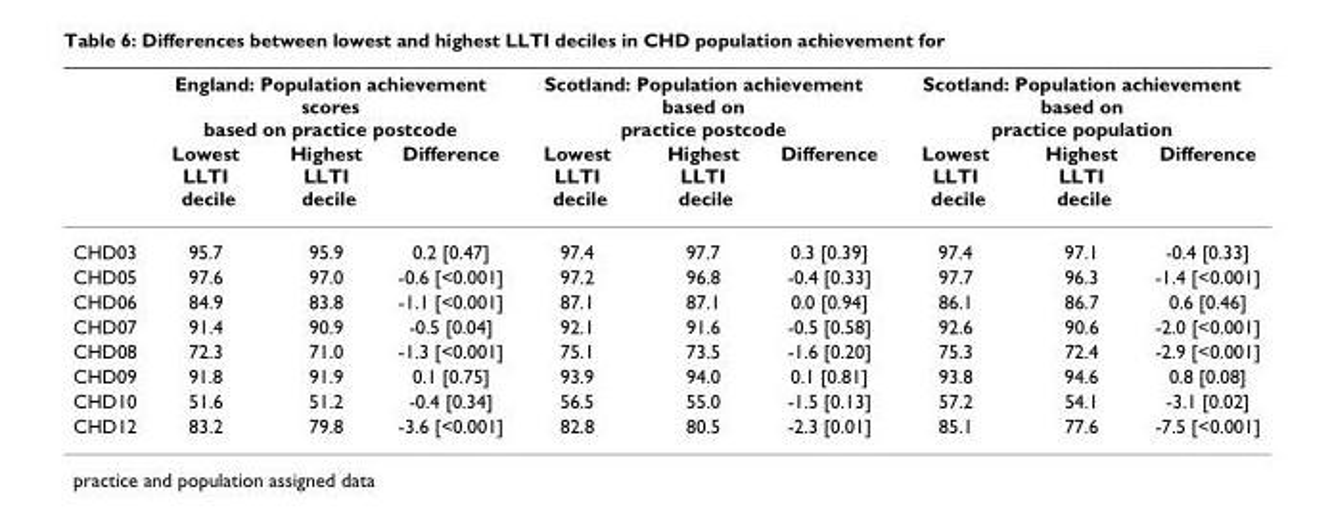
<table><thead><tr><td rowspan="2"></td><td colspan="3">England: Population achievement scores based on practice postcode</td><td colspan="3">Scotland: Population achievement based on practice postcode</td><td colspan="3">Scotland: Population achievement based on practice population</td></tr><tr><td>Lowest LLTI decile</td><td>Highest LLTI decile</td><td>Difference</td><td>Lowest LLTI decile</td><td>Highest LLTI decile</td><td>Difference</td><td>Lowest LLTI decile</td><td>Highest LLTI decile</td><td>Difference</td></tr></thead><tbody><tr><td>CHD03</td><td>95.7</td><td>95.9</td><td>0.2 [0.47]</td><td>97.4</td><td>97.7</td><td>0.3 [0.39]</td><td>97.4</td><td>97.1</td><td>-0.4 [0.33]</td></tr><tr><td>CHD05</td><td>97.6</td><td>97.0</td><td>-0.6 [&lt;0.001]</td><td>97.2</td><td>96.8</td><td>-0.4 [0.33]</td><td>97.7</td><td>96.3</td><td>-1.4 [&lt;0.001]</td></tr><tr><td>CHD06</td><td>84.9</td><td>83.8</td><td>-1.1 [&lt;0.001]</td><td>87.1</td><td>87.1</td><td>0.0 [0.94]</td><td>86.1</td><td>86.7</td><td>0.6 [0.46]</td></tr><tr><td>CHD07</td><td>91.4</td><td>90.9</td><td>-0.5 [0.04]</td><td>92.1</td><td>91.6</td><td>-0.5 [0.58]</td><td>92.6</td><td>90.6</td><td>-2.0 [&lt;0.001]</td></tr><tr><td>CHD08</td><td>72.3</td><td>71.0</td><td>-1.3 [&lt;0.001]</td><td>75.1</td><td>73.5</td><td>-1.6 [0.20]</td><td>75.3</td><td>72.4</td><td>-2.9 [&lt;0.001]</td></tr><tr><td>CHD09</td><td>91.8</td><td>91.9</td><td>0.1 [0.75]</td><td>93.9</td><td>94.0</td><td>0.1 [0.81]</td><td>93.8</td><td>94.6</td><td>0.8 [0.08]</td></tr><tr><td>CHD10</td><td>51.6</td><td>51.2</td><td>-0.4 [0.34]</td><td>56.5</td><td>55.0</td><td>-1.5 [0.13]</td><td>57.2</td><td>54.1</td><td>-3.1 [0.02]</td></tr><tr><td>CHD12</td><td>83.2</td><td>79.8</td><td>-3.6 [&lt;0.001]</td><td>82.8</td><td>80.5</td><td>-2.3 [0.01]</td><td>85.1</td><td>77.6</td><td>-7.5 [&lt;0.001]</td></tr></tbody></table>